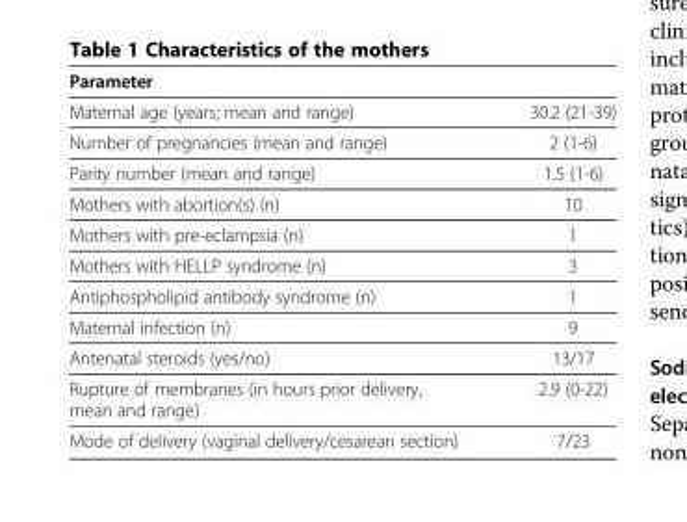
<table><thead><tr><td>Parameter</td><td></td></tr></thead><tbody><tr><td>Maternal age (years; mean and range)</td><td>30.2 (21-39)</td></tr><tr><td>Number of pregnancies (mean and range)</td><td>2 (1-6)</td></tr><tr><td>Parity number (mean and range)</td><td>1.5 (1-6)</td></tr><tr><td>Mothers with abortion(s) (n)</td><td>10</td></tr><tr><td>Mothers with pre-eclampsia (n)</td><td>1</td></tr><tr><td>Mothers with HELLP syndrome (n)</td><td>3</td></tr><tr><td>Antiphospholipid antibody syndrome (n)</td><td>1</td></tr><tr><td>Maternal infection (n)</td><td>9</td></tr><tr><td>Antenatal steroids (yes/no)</td><td>13/17</td></tr><tr><td>Rupture of membranes (in hours prior delivery, mean and range)</td><td>2.9 (0-22)</td></tr><tr><td>Mode of delivery (vaginal delivery/cesarean section)</td><td>7/23</td></tr></tbody></table>